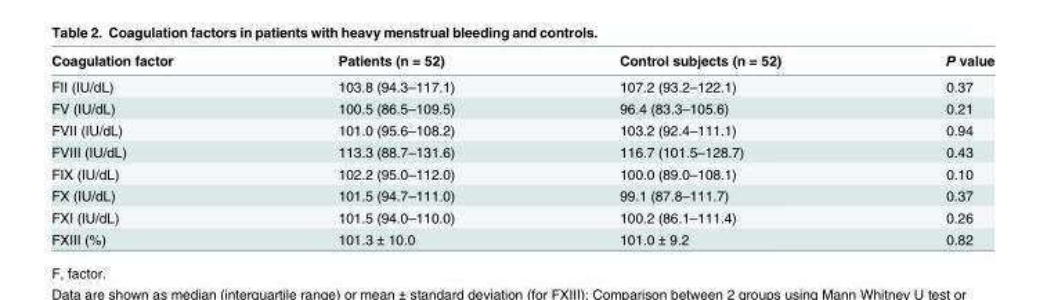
<table><thead><tr><td>Coagulation factor</td><td>Patients (n = 52)</td><td>Control subjects (n = 52)</td><td>P value</td></tr></thead><tbody><tr><td>FII (IU/dL)</td><td>103.8 (94.3–117.1)</td><td>107.2 (93.2–122.1)</td><td>0.37</td></tr><tr><td>FV (IU/dL)</td><td>100.5 (86.5–109.5)</td><td>96.4 (83.3–105.6)</td><td>0.21</td></tr><tr><td>FVII (IU/dL)</td><td>101.0 (95.6–108.2)</td><td>103.2 (92.4–111.1)</td><td>0.94</td></tr><tr><td>FVIII (IU/dL)</td><td>113.3 (88.7–131.6)</td><td>116.7 (101.5–128.7)</td><td>0.43</td></tr><tr><td>FIX (IU/dL)</td><td>102.2 (95.0–112.0)</td><td>100.0 (89.0–108.1)</td><td>0.10</td></tr><tr><td>FX (IU/dL)</td><td>101.5 (94.7–111.0)</td><td>99.1 (87.8–111.7)</td><td>0.37</td></tr><tr><td>FXI (IU/dL)</td><td>101.5 (94.0–110.0)</td><td>100.2 (86.1–111.4)</td><td>0.26</td></tr><tr><td>FXIII (%)</td><td>101.3 ± 10.0</td><td>101.0 ± 9.2</td><td>0.82</td></tr></tbody></table>